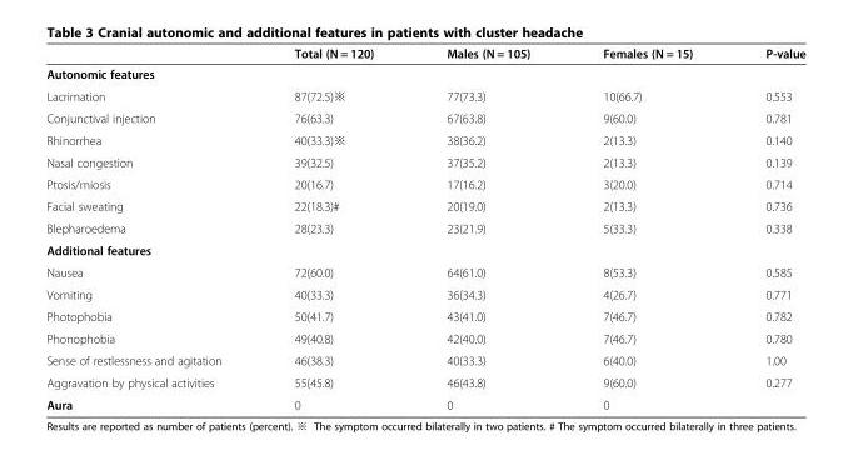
<table><thead><tr><td></td><td>Total (N = 120)</td><td>Males (N = 105)</td><td>Females (N = 15)</td><td>P-value</td></tr></thead><tbody><tr><td colspan="5">Autonomic features</td></tr><tr><td>Lacrimation</td><td>87(72.5)※</td><td>77(73.3)</td><td>10(66.7)</td><td>0.553</td></tr><tr><td>Conjunctival injection</td><td>76(63.3)</td><td>67(63.8)</td><td>9(60.0)</td><td>0.781</td></tr><tr><td>Rhinorrhea</td><td>40(33.3)※</td><td>38(36.2)</td><td>2(13.3)</td><td>0.140</td></tr><tr><td>Nasal congestion</td><td>39(32.5)</td><td>37(35.2)</td><td>2(13.3)</td><td>0.139</td></tr><tr><td>Ptosis/miosis</td><td>20(16.7)</td><td>17(16.2)</td><td>3(20.0)</td><td>0.714</td></tr><tr><td>Facial sweating</td><td>22(18.3)#</td><td>20(19.0)</td><td>2(13.3)</td><td>0.736</td></tr><tr><td>Blepharoedema</td><td>28(23.3)</td><td>23(21.9)</td><td>5(33.3)</td><td>0.338</td></tr><tr><td colspan="5">Additional features</td></tr><tr><td>Nausea</td><td>72(60.0)</td><td>64(61.0)</td><td>8(53.3)</td><td>0.585</td></tr><tr><td>Vomiting</td><td>40(33.3)</td><td>36(34.3)</td><td>4(26.7)</td><td>0.771</td></tr><tr><td>Photophobia</td><td>50(41.7)</td><td>43(41.0)</td><td>7(46.7)</td><td>0.782</td></tr><tr><td>Phonophobia</td><td>49(40.8)</td><td>42(40.0)</td><td>7(46.7)</td><td>0.780</td></tr><tr><td>Sense of restlessness and agitation</td><td>46(38.3)</td><td>40(33.3)</td><td>6(40.0)</td><td>1.00</td></tr><tr><td>Aggravation by physical activities</td><td>55(45.8)</td><td>46(43.8)</td><td>9(60.0)</td><td>0.277</td></tr><tr><td>Aura</td><td>0</td><td>0</td><td>0</td><td></td></tr></tbody></table>